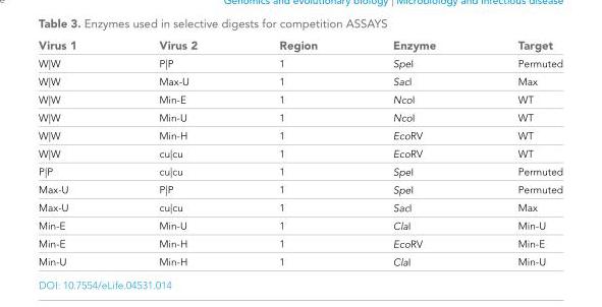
<table><thead><tr><td>Virus 1</td><td>Virus 2</td><td>Region</td><td>Enzyme</td><td>Target</td></tr></thead><tbody><tr><td>W|W</td><td>P|P</td><td>1</td><td>SpeI</td><td>Permuted</td></tr><tr><td>W|W</td><td>Max-U</td><td>1</td><td>SacI</td><td>Max</td></tr><tr><td>W|W</td><td>Min-E</td><td>1</td><td>NcoI</td><td>WT</td></tr><tr><td>W|W</td><td>Min-U</td><td>1</td><td>NcoI</td><td>WT</td></tr><tr><td>W|W</td><td>Min-H</td><td>1</td><td>EcoRV</td><td>WT</td></tr><tr><td>W|W</td><td>cu|cu</td><td>1</td><td>EcoRV</td><td>WT</td></tr><tr><td>P|P</td><td>cu|cu</td><td>1</td><td>SpeI</td><td>Permuted</td></tr><tr><td>Max-U</td><td>P|P</td><td>1</td><td>SpeI</td><td>Permuted</td></tr><tr><td>Max-U</td><td>cu|cu</td><td>1</td><td>SacI</td><td>Max</td></tr><tr><td>Min-E</td><td>Min-U</td><td>1</td><td>ClaI</td><td>Min-U</td></tr><tr><td>Min-E</td><td>Min-H</td><td>1</td><td>EcoRV</td><td>Min-E</td></tr><tr><td>Min-U</td><td>Min-H</td><td>1</td><td>ClaI</td><td>Min-U</td></tr></tbody></table>